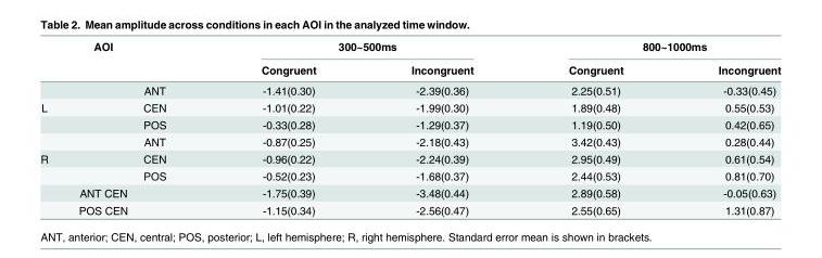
<table><thead><tr><td rowspan="2" colspan="2">AOI</td><td colspan="2">300~500ms</td><td colspan="2">800~1000ms</td></tr><tr><td rowspan="2">Congruent -1.41(0.30)</td><td rowspan="2">Incongruent -2.39(0.36)</td><td rowspan="2">Congruent 2.25(0.51)</td><td rowspan="2">Incongruent -0.33(0.45)</td></tr><tr><td></td><td>ANT</td></tr></thead><tbody><tr><td rowspan="3">L</td><td>CEN</td><td>-1.01(0.22)</td><td>-1.99(0.30)</td><td>1.89(0.48)</td><td>0.55(0.53)</td></tr><tr><td>POS</td><td>-0.33(0.28)</td><td>-1.29(0.37)</td><td>1.19(0.50)</td><td>0.42(0.65)</td></tr><tr><td>ANT</td><td>-0.87(0.25)</td><td>-2.18(0.43)</td><td>3.42(0.43)</td><td>0.28(0.44)</td></tr><tr><td rowspan="2">R</td><td>CEN</td><td>-0.96(0.22)</td><td>-2.24(0.39)</td><td>2.95(0.49)</td><td>0.61(0.54)</td></tr><tr><td>POS</td><td>-0.52(0.23)</td><td>-1.68(0.37)</td><td>2.44(0.53)</td><td>0.81(0.70)</td></tr><tr><td colspan="2">ANT CEN</td><td>-1.75(0.39)</td><td>-3.48(0.44)</td><td>2.89(0.58)</td><td>-0.05(0.63)</td></tr><tr><td colspan="2">POS CEN</td><td>-1.15(0.34)</td><td>-2.56(0.47)</td><td>2.55(0.65)</td><td>1.31(0.87)</td></tr></tbody></table>